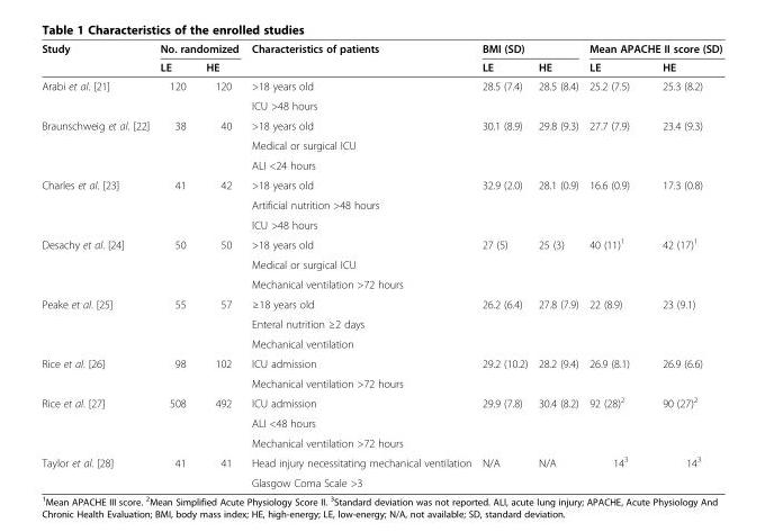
<table><thead><tr><td rowspan="2">Study</td><td colspan="2">No. randomized</td><td rowspan="2">Characteristics of patients</td><td colspan="2">BMI (SD)</td><td colspan="2">Mean APACHE II score (SD)</td></tr><tr><td>LE</td><td>HE</td><td>LE</td><td>HE</td><td>LE</td><td>HE</td></tr></thead><tbody><tr><td rowspan="2">Arabi et al. [21]</td><td rowspan="2">120</td><td rowspan="2">120</td><td>&gt;18 years old</td><td rowspan="2">28.5 (7.4)</td><td rowspan="2">28.5 (8.4)</td><td rowspan="2">25.2 (7.5)</td><td rowspan="2">25.3 (8.2)</td></tr><tr><td>ICU &gt;48 hours</td></tr><tr><td rowspan="3">Braunschweig et al. [22]</td><td rowspan="3">38</td><td rowspan="3">40</td><td>&gt;18 years old</td><td rowspan="3">30.1 (8.9)</td><td rowspan="3">29.8 (9.3)</td><td rowspan="3">27.7 (7.9)</td><td rowspan="3">23.4 (9.3)</td></tr><tr><td>Medical or surgical ICU</td></tr><tr><td>ALI &lt;24 hours</td></tr><tr><td rowspan="3">Charles et al. [23]</td><td rowspan="3">41</td><td rowspan="3">42</td><td>&gt;18 years old</td><td rowspan="3">32.9 (2.0)</td><td rowspan="3">28.1 (0.9)</td><td rowspan="3">16.6 (0.9)</td><td rowspan="3">17.3 (0.8)</td></tr><tr><td>Artificial nutrition &gt;48 hours</td></tr><tr><td>ICU &gt;48 hours</td></tr><tr><td rowspan="3">Desachy et al. [24]</td><td rowspan="3">50</td><td rowspan="3">50</td><td>&gt;18 years old</td><td rowspan="3">27 (5)</td><td rowspan="3">25 (3)</td><td rowspan="3">40 (11)<sup>1</sup></td><td rowspan="3">42 (17)<sup>1</sup></td></tr><tr><td>Medical or surgical ICU</td></tr><tr><td>Mechanical ventilation &gt;72 hours</td></tr><tr><td rowspan="3">Peake et al. [25]</td><td rowspan="3">55</td><td rowspan="3">57</td><td>≥18 years old</td><td rowspan="3">26.2 (6.4)</td><td rowspan="3">27.8 (7.9)</td><td rowspan="3">22 (8.9)</td><td rowspan="3">23 (9.1)</td></tr><tr><td>Enteral nutrition ≥2 days</td></tr><tr><td>Mechanical ventilation</td></tr><tr><td rowspan="2">Rice et al. [26]</td><td rowspan="2">98</td><td rowspan="2">102</td><td>ICU admission</td><td rowspan="2">29.2 (10.2)</td><td rowspan="2">28.2 (9.4)</td><td rowspan="2">26.9 (8.1)</td><td rowspan="2">26.9 (6.6)</td></tr><tr><td>Mechanical ventilation &gt;72 hours</td></tr><tr><td rowspan="3">Rice et al. [27]</td><td rowspan="3">508</td><td rowspan="3">492</td><td>ICU admission</td><td rowspan="3">29.9 (7.8)</td><td rowspan="3">30.4 (8.2)</td><td rowspan="3">92 (28)<sup>2</sup></td><td rowspan="3">90 (27)<sup>2</sup></td></tr><tr><td>ALI &lt;48 hours</td></tr><tr><td>Mechanical ventilation &gt;72 hours</td></tr><tr><td rowspan="2">Taylor et al. [28]</td><td rowspan="2">41</td><td rowspan="2">41</td><td>Head injury necessitating mechanical ventilation</td><td rowspan="2">N/A</td><td rowspan="2">N/A</td><td rowspan="2">14<sup>3</sup></td><td rowspan="2">14<sup>3</sup></td></tr><tr><td>Glasgow Coma Scale &gt;3</td></tr></tbody></table>